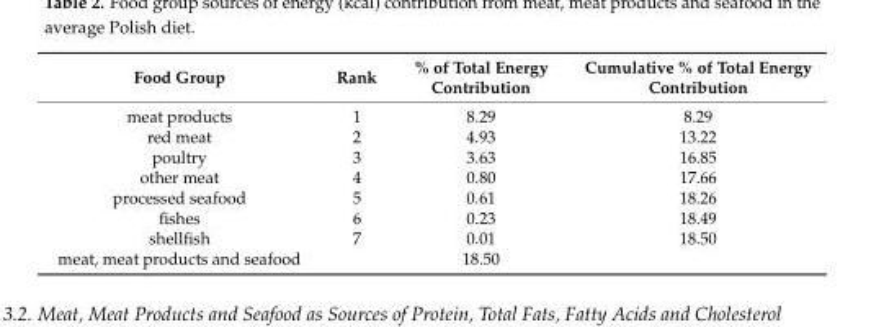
<table><thead><tr><td>Food Group</td><td>Rank</td><td>% of Total Energy Contribution</td><td>Cumulative % of Total Energy Contribution</td></tr></thead><tbody><tr><td>meat products</td><td>1</td><td>8.29</td><td>8.29</td></tr><tr><td>red meat</td><td>2</td><td>4.93</td><td>13.22</td></tr><tr><td>poultry</td><td>3</td><td>3.63</td><td>16.85</td></tr><tr><td>other meat</td><td>4</td><td>0.80</td><td>17.66</td></tr><tr><td>processed seafood</td><td>5</td><td>0.61</td><td>18.26</td></tr><tr><td>fishes</td><td>6</td><td>0.23</td><td>18.49</td></tr><tr><td>shellfish</td><td>7</td><td>0.01</td><td>18.50</td></tr><tr><td>meat, meat products and seafood</td><td></td><td>18.50</td><td></td></tr></tbody></table>